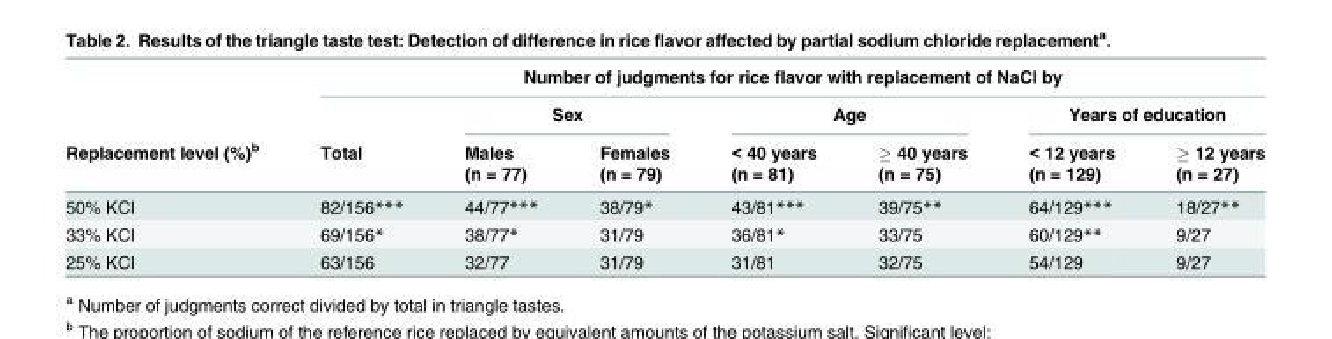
<table><thead><tr><td rowspan="4">Replacement level (%)<sup>b</sup></td><td colspan="7">Number of judgments for rice flavor with replacement of NaCl by</td></tr><tr><td rowspan="3">Total</td><td colspan="2">Sex</td><td colspan="2">Age</td><td colspan="2">Years of education</td></tr><tr><td rowspan="2">Males (n = 77)</td><td rowspan="2">Females (n = 79)</td><td rowspan="2">&lt; 40 years (n = 81)</td><td rowspan="2">≥ 40 years (n = 75)</td><td rowspan="2">&lt; 12 years (n = 129)</td><td rowspan="2">≥ 12 years (n = 27)</td></tr><tr></tr></thead><tbody><tr><td>50% KCl</td><td>82/156***</td><td>44/77***</td><td>38/79*</td><td>43/81***</td><td>39/75**</td><td>64/129***</td><td>18/27**</td></tr><tr><td>33% KCl</td><td>69/156*</td><td>38/77*</td><td>31/79</td><td>36/81*</td><td>33/75</td><td>60/129**</td><td>9/27</td></tr><tr><td>25% KCl</td><td>63/156</td><td>32/77</td><td>31/79</td><td>31/81</td><td>32/75</td><td>54/129</td><td>9/27</td></tr></tbody></table>